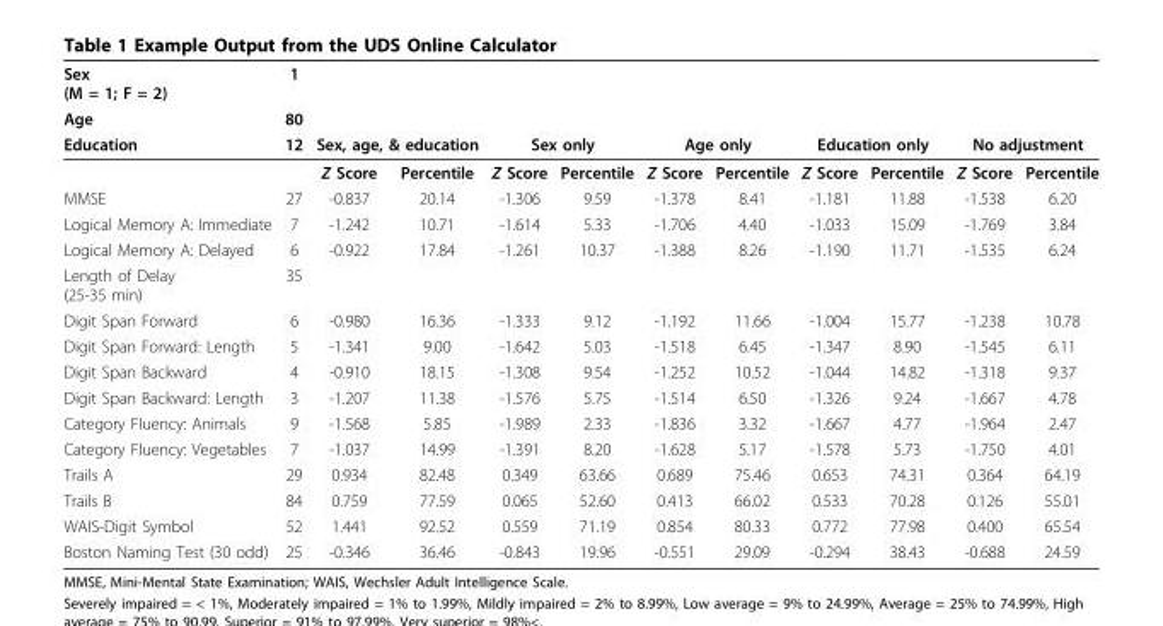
<table><thead><tr><td rowspan="3">Sex (M = 1; F = 2) Age Education</td><td rowspan="3">1 80 12</td><td rowspan="2"></td><td rowspan="2"></td><td rowspan="2"></td><td rowspan="2"></td><td rowspan="2"></td><td rowspan="2"></td><td rowspan="2"></td><td rowspan="2"></td><td rowspan="2"></td><td rowspan="2"></td></tr><tr></tr><tr><td colspan="2">Sex, age, &amp; education</td><td colspan="2">Sex only</td><td colspan="2">Age only</td><td colspan="2">Education only</td><td colspan="2">No adjustment</td></tr></thead><tbody><tr><td></td><td></td><td>Z Score</td><td>Percentile</td><td>Z Score</td><td>Percentile</td><td>Z Score</td><td>Percentile</td><td>Z Score</td><td>Percentile</td><td>Z Score</td><td>Percentile</td></tr><tr><td>MMSE</td><td>27</td><td>-0.837</td><td>20.14</td><td>-1.306</td><td>9.59</td><td>-1.378</td><td>8.41</td><td>-1.181</td><td>11.88</td><td>-1.538</td><td>6.20</td></tr><tr><td>Logical Memory A: Immediate</td><td>7</td><td>-1.242</td><td>10.71</td><td>-1.614</td><td>5.33</td><td>-1.706</td><td>4.40</td><td>-1.033</td><td>15.09</td><td>-1.769</td><td>3.84</td></tr><tr><td>Logical Memory A: Delayed</td><td>6</td><td>-0.922</td><td>17.84</td><td>-1.261</td><td>10.37</td><td>-1.388</td><td>8.26</td><td>-1.190</td><td>11.71</td><td>-1.535</td><td>6.24</td></tr><tr><td>Length of Delay (25-35 min)</td><td>35</td><td></td><td></td><td></td><td></td><td></td><td></td><td></td><td></td><td></td><td></td></tr><tr><td>Digit Span Forward</td><td>6</td><td>-0.980</td><td>16.36</td><td>-1.333</td><td>9.12</td><td>-1.192</td><td>11.66</td><td>-1.004</td><td>15.77</td><td>-1.238</td><td>10.78</td></tr><tr><td>Digit Span Forward: Length</td><td>5</td><td>-1.341</td><td>9.00</td><td>-1.642</td><td>5.03</td><td>-1.518</td><td>6.45</td><td>-1.347</td><td>8.90</td><td>-1.545</td><td>6.11</td></tr><tr><td>Digit Span Backward</td><td>4</td><td>-0.910</td><td>18.15</td><td>-1.308</td><td>9.54</td><td>-1.252</td><td>10.52</td><td>-1.044</td><td>14.82</td><td>-1.318</td><td>9.37</td></tr><tr><td>Digit Span Backward: Length</td><td>3</td><td>-1.207</td><td>11.38</td><td>-1.576</td><td>5.75</td><td>-1.514</td><td>6.50</td><td>-1.326</td><td>9.24</td><td>-1.667</td><td>4.78</td></tr><tr><td>Category Fluency: Animals</td><td>9</td><td>-1.568</td><td>5.85</td><td>-1.989</td><td>2.33</td><td>-1.836</td><td>3.32</td><td>-1.667</td><td>4.77</td><td>-1.964</td><td>2.47</td></tr><tr><td>Category Fluency: Vegetables</td><td>7</td><td>-1.037</td><td>14.99</td><td>-1.391</td><td>8.20</td><td>-1.628</td><td>5.17</td><td>-1.578</td><td>5.73</td><td>-1.750</td><td>4.01</td></tr><tr><td>Trails A</td><td>29</td><td>0.934</td><td>82.48</td><td>0.349</td><td>63.66</td><td>0.689</td><td>75.46</td><td>0.653</td><td>74.31</td><td>0.364</td><td>64.19</td></tr><tr><td>Trails B</td><td>84</td><td>0.759</td><td>77.59</td><td>0.065</td><td>52.60</td><td>0.413</td><td>66.02</td><td>0.533</td><td>70.28</td><td>0.126</td><td>55.01</td></tr><tr><td>WAIS-Digit Symbol</td><td>52</td><td>1.441</td><td>92.52</td><td>0.559</td><td>71.19</td><td>0.854</td><td>80.33</td><td>0.772</td><td>77.98</td><td>0.400</td><td>65.54</td></tr><tr><td>Boston Naming Test (30 odd)</td><td>25</td><td>-0.346</td><td>36.46</td><td>-0.843</td><td>19.96</td><td>-0.551</td><td>29.09</td><td>-0.294</td><td>38.43</td><td>-0.688</td><td>24.59</td></tr></tbody></table>